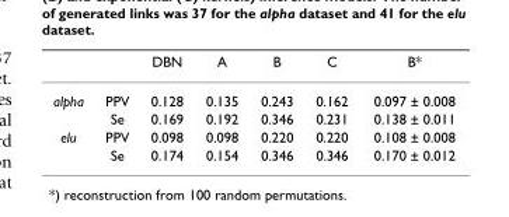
<table><thead><tr><td></td><td></td><td>DBN</td><td>A</td><td>B</td><td>C</td><td>B*</td></tr></thead><tbody><tr><td rowspan="2">alpha</td><td>PPV</td><td>0.128</td><td>0.135</td><td>0.243</td><td>0.162</td><td>0.097 ± 0.008</td></tr><tr><td>Se</td><td>0.169</td><td>0.192</td><td>0.346</td><td>0.231</td><td>0.138 ± 0.011</td></tr><tr><td rowspan="2">elu</td><td>PPV</td><td>0.098</td><td>0.098</td><td>0.220</td><td>0.220</td><td>0.108 ± 0.008</td></tr><tr><td>Se</td><td>0.174</td><td>0.154</td><td>0.346</td><td>0.346</td><td>0.170 ± 0.012</td></tr></tbody></table>